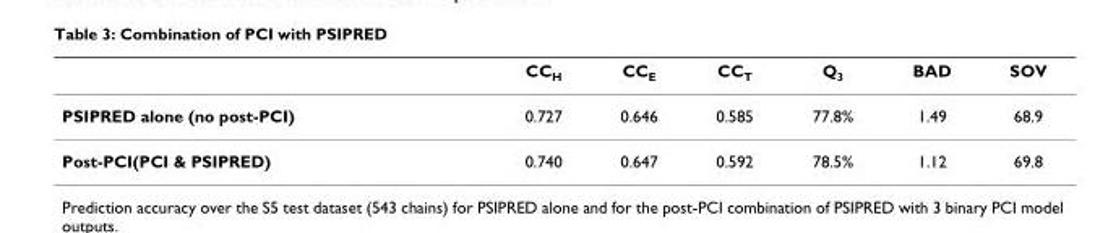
<table><thead><tr><td></td><td>CC<sub>H</sub></td><td>CC<sub>E</sub></td><td>CC<sub>T</sub></td><td>Q<sub>3</sub></td><td>BAD</td><td>SOV</td></tr></thead><tbody><tr><td>PSIPRED alone (no post-PCI)</td><td>0.727</td><td>0.646</td><td>0.585</td><td>77.8%</td><td>1.49</td><td>68.9</td></tr><tr><td>Post-PCI(PCI &amp; PSIPRED)</td><td>0.740</td><td>0.647</td><td>0.592</td><td>78.5%</td><td>1.12</td><td>69.8</td></tr></tbody></table>